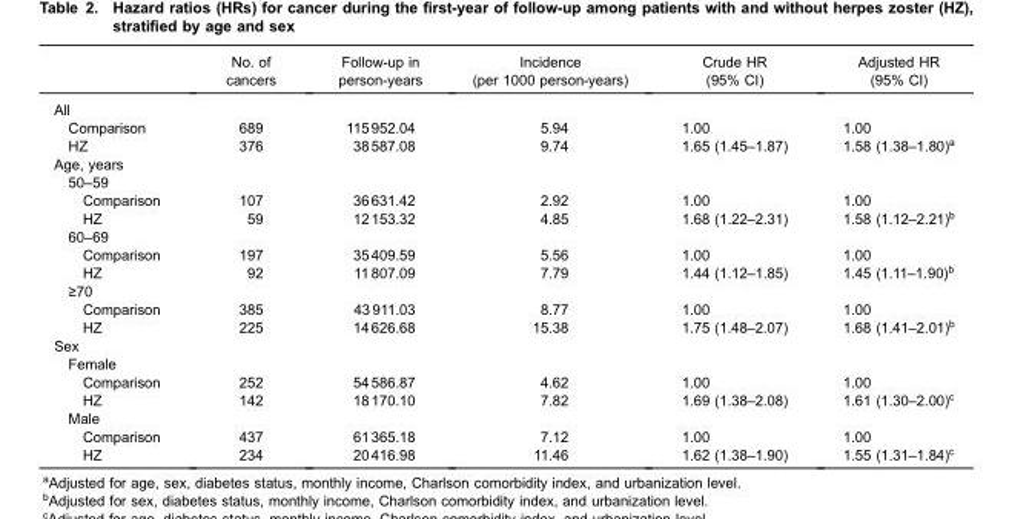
<table><thead><tr><td></td><td>No. of cancers</td><td>Follow-up in person-years</td><td>Incidence (per 1000 person-years)</td><td>Crude HR (95% CI)</td><td>Adjusted HR (95% CI)</td></tr></thead><tbody><tr><td colspan="6">All</td></tr><tr><td>Comparison</td><td>689</td><td>115 952.04</td><td>5.94</td><td>1.00</td><td>1.00</td></tr><tr><td>HZ</td><td>376</td><td>38 587.08</td><td>9.74</td><td>1.65 (1.45–1.87)</td><td>1.58 (1.38–1.80)<sup>a</sup></td></tr><tr><td colspan="6">Age, years</td></tr><tr><td colspan="6">50–59</td></tr><tr><td>Comparison</td><td>107</td><td>36 631.42</td><td>2.92</td><td>1.00</td><td>1.00</td></tr><tr><td>HZ</td><td>59</td><td>12 153.32</td><td>4.85</td><td>1.68 (1.22–2.31)</td><td>1.58 (1.12–2.21)<sup>b</sup></td></tr><tr><td colspan="6">60–69</td></tr><tr><td>Comparison</td><td>197</td><td>35 409.59</td><td>5.56</td><td>1.00</td><td>1.00</td></tr><tr><td>HZ</td><td>92</td><td>11 807.09</td><td>7.79</td><td>1.44 (1.12–1.85)</td><td>1.45 (1.11–1.90)<sup>b</sup></td></tr><tr><td colspan="6">≥70</td></tr><tr><td>Comparison</td><td>385</td><td>43 911.03</td><td>8.77</td><td>1.00</td><td>1.00</td></tr><tr><td>HZ</td><td>225</td><td>14 626.68</td><td>15.38</td><td>1.75 (1.48–2.07)</td><td>1.68 (1.41–2.01)<sup>b</sup></td></tr><tr><td colspan="6">Sex</td></tr><tr><td colspan="6">Female</td></tr><tr><td>Comparison</td><td>252</td><td>54 586.87</td><td>4.62</td><td>1.00</td><td>1.00</td></tr><tr><td>HZ</td><td>142</td><td>18 170.10</td><td>7.82</td><td>1.69 (1.38–2.08)</td><td>1.61 (1.30–2.00)<sup>c</sup></td></tr><tr><td colspan="6">Male</td></tr><tr><td>Comparison</td><td>437</td><td>61 365.18</td><td>7.12</td><td>1.00</td><td>1.00</td></tr><tr><td>HZ</td><td>234</td><td>20 416.98</td><td>11.46</td><td>1.62 (1.38–1.90)</td><td>1.55 (1.31–1.84)<sup>c</sup></td></tr></tbody></table>